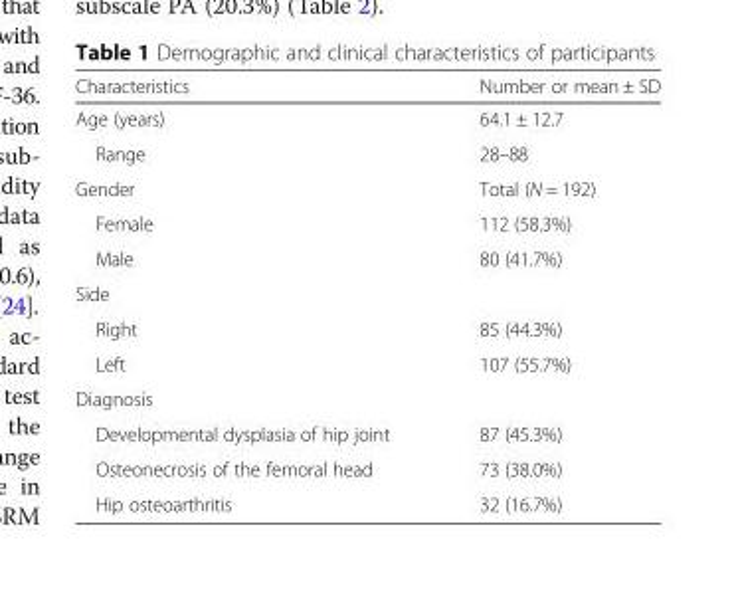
<table><thead><tr><td>Characteristics</td><td>Number or mean ± SD</td></tr></thead><tbody><tr><td>Age (years)</td><td>64.1 ± 12.7</td></tr><tr><td>Range</td><td>28–88</td></tr><tr><td>Gender</td><td>Total (N = 192)</td></tr><tr><td>Female</td><td>112 (58.3%)</td></tr><tr><td>Male</td><td>80 (41.7%)</td></tr><tr><td colspan="2">Side</td></tr><tr><td>Right</td><td>85 (44.3%)</td></tr><tr><td>Left</td><td>107 (55.7%)</td></tr><tr><td colspan="2">Diagnosis</td></tr><tr><td>Developmental dysplasia of hip joint</td><td>87 (45.3%)</td></tr><tr><td>Osteonecrosis of the femoral head</td><td>73 (38.0%)</td></tr><tr><td>Hip osteoarthritis</td><td>32 (16.7%)</td></tr></tbody></table>